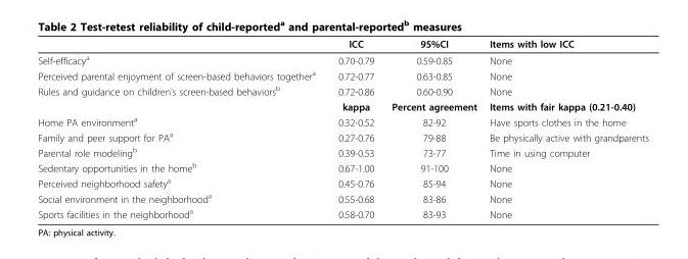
<table><thead><tr><td></td><td>ICC</td><td>95%CI</td><td>Items with low ICC</td></tr></thead><tbody><tr><td>Self-efficacy<sup>a</sup></td><td>0.70-0.79</td><td>0.59-0.85</td><td>None</td></tr><tr><td>Perceived parental enjoyment of screen-based behaviors together<sup>a</sup></td><td>0.72-0.77</td><td>0.63-0.85</td><td>None</td></tr><tr><td rowspan="2">Rules and guidance on children’s screen-based behaviors<sup>b</sup></td><td>0.72-0.86</td><td>0.60-0.90</td><td>None</td></tr><tr><td>kappa</td><td>Percent agreement</td><td>Items with fair kappa (0.21-0.40)</td></tr><tr><td>Home PA environment<sup>a</sup></td><td>0.32-0.52</td><td>82-92</td><td>Have sports clothes in the home</td></tr><tr><td>Family and peer support for PA<sup>a</sup></td><td>0.27-0.76</td><td>79-88</td><td>Be physically active with grandparents</td></tr><tr><td>Parental role modeling<sup>b</sup></td><td>0.39-0.53</td><td>73-77</td><td>Time in using computer</td></tr><tr><td>Sedentary opportunities in the home<sup>b</sup></td><td>0.67-1.00</td><td>91-100</td><td>None</td></tr><tr><td>Perceived neighborhood safety<sup>a</sup></td><td>0.45-0.76</td><td>85-94</td><td>None</td></tr><tr><td>Social environment in the neighborhood<sup>a</sup></td><td>0.55-0.68</td><td>83-86</td><td>None</td></tr><tr><td>Sports facilities in the neighborhood<sup>a</sup></td><td>0.58-0.70</td><td>83-93</td><td>None</td></tr></tbody></table>